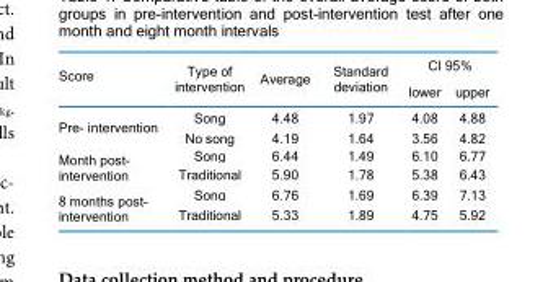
<table><thead><tr><td rowspan="2">Score</td><td rowspan="2">Type of intervention</td><td rowspan="2">Average</td><td rowspan="2">Standard deviation</td><td colspan="2">CI 95%</td></tr><tr><td>lower</td><td>upper</td></tr></thead><tbody><tr><td rowspan="2">Pre- intervention</td><td>Song</td><td>4.48</td><td>1.97</td><td>4.08</td><td>4.88</td></tr><tr><td>No song</td><td>4.19</td><td>1.64</td><td>3.56</td><td>4.82</td></tr><tr><td rowspan="2">Month post- intervention</td><td>Song</td><td>6.44</td><td>1.49</td><td>6.10</td><td>6.77</td></tr><tr><td>Traditional</td><td>5.90</td><td>1.78</td><td>5.38</td><td>6.43</td></tr><tr><td rowspan="2">8 months post- intervention</td><td>Song</td><td>6.76</td><td>1.69</td><td>6.39</td><td>7.13</td></tr><tr><td>Traditional</td><td>5.33</td><td>1.89</td><td>4.75</td><td>5.92</td></tr></tbody></table>